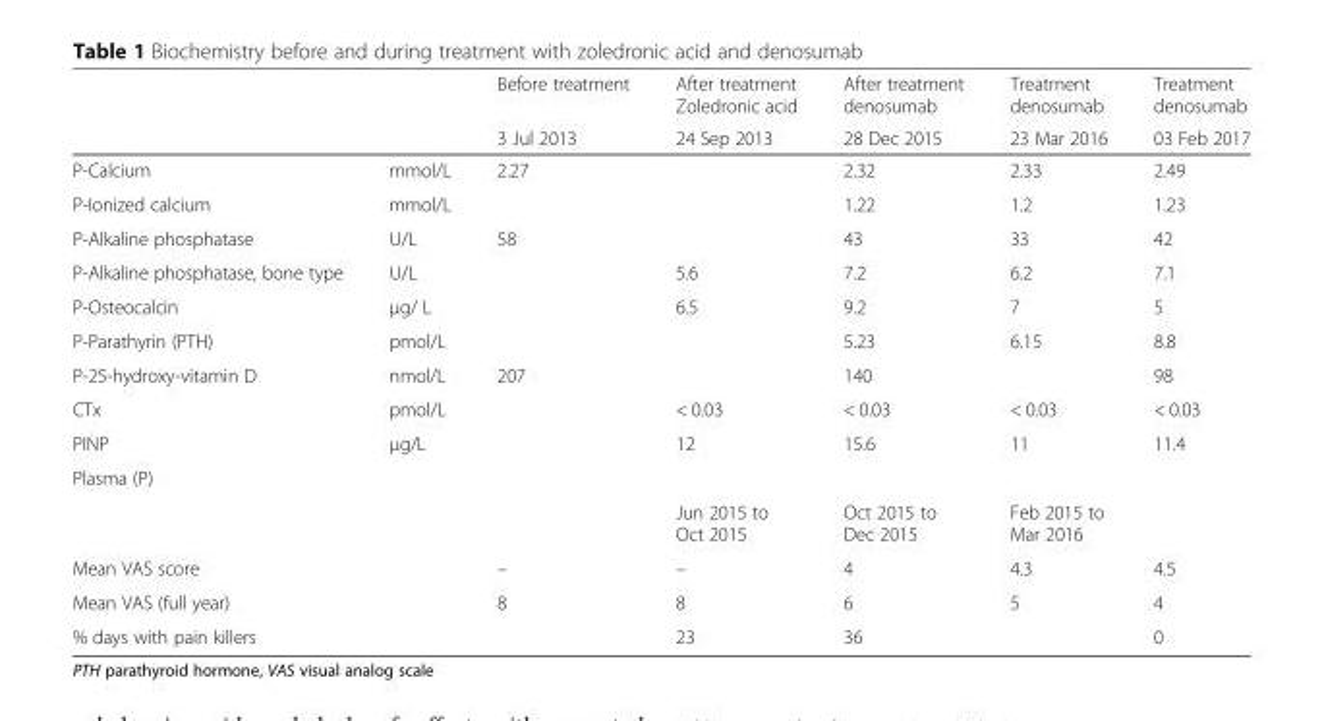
<table><thead><tr><td rowspan="2"></td><td rowspan="2"></td><td rowspan="2">Before treatment 3 Jul 2013</td><td rowspan="2">After treatment Zoledronic acid 24 Sep 2013</td><td rowspan="2">After treatment denosumab 28 Dec 2015</td><td rowspan="2">Treatment denosumab 23 Mar 2016</td><td rowspan="2">Treatment denosumab 03 Feb 2017</td></tr><tr></tr></thead><tbody><tr><td>P-Calcium</td><td>mmol/L</td><td>2.27</td><td></td><td>2.32</td><td>2.33</td><td>2.49</td></tr><tr><td>P-Ionized calcium</td><td>mmol/L</td><td></td><td></td><td>1.22</td><td>1.2</td><td>1.23</td></tr><tr><td>P-Alkaline phosphatase</td><td>U/L</td><td>58</td><td></td><td>43</td><td>33</td><td>42</td></tr><tr><td>P-Alkaline phosphatase, bone type</td><td>U/L</td><td></td><td>5.6</td><td>7.2</td><td>6.2</td><td>7.1</td></tr><tr><td>P-Osteocalcin</td><td>μg/ L</td><td></td><td>6.5</td><td>9.2</td><td>7</td><td>5</td></tr><tr><td>P-Parathyrin (PTH)</td><td>pmol/L</td><td></td><td></td><td>5.23</td><td>6.15</td><td>8.8</td></tr><tr><td>P-25-hydroxy-vitamin D</td><td>nmol/L</td><td>207</td><td></td><td>140</td><td></td><td>98</td></tr><tr><td>CTx</td><td>pmol/L</td><td></td><td>&lt; 0.03</td><td>&lt; 0.03</td><td>&lt; 0.03</td><td>&lt; 0.03</td></tr><tr><td>PINP</td><td>μg/L</td><td></td><td>12</td><td>15.6</td><td>11</td><td>11.4</td></tr><tr><td colspan="7">Plasma (P)</td></tr><tr><td></td><td></td><td></td><td>Jun 2015 to Oct 2015</td><td>Oct 2015 to Dec 2015</td><td>Feb 2015 to Mar 2016</td><td></td></tr><tr><td>Mean VAS score</td><td></td><td>–</td><td>–</td><td>4</td><td>4.3</td><td>4.5</td></tr><tr><td>Mean VAS (full year)</td><td></td><td>8</td><td>8</td><td>6</td><td>5</td><td>4</td></tr><tr><td>% days with pain killers</td><td></td><td></td><td>23</td><td>36</td><td></td><td>0</td></tr></tbody></table>